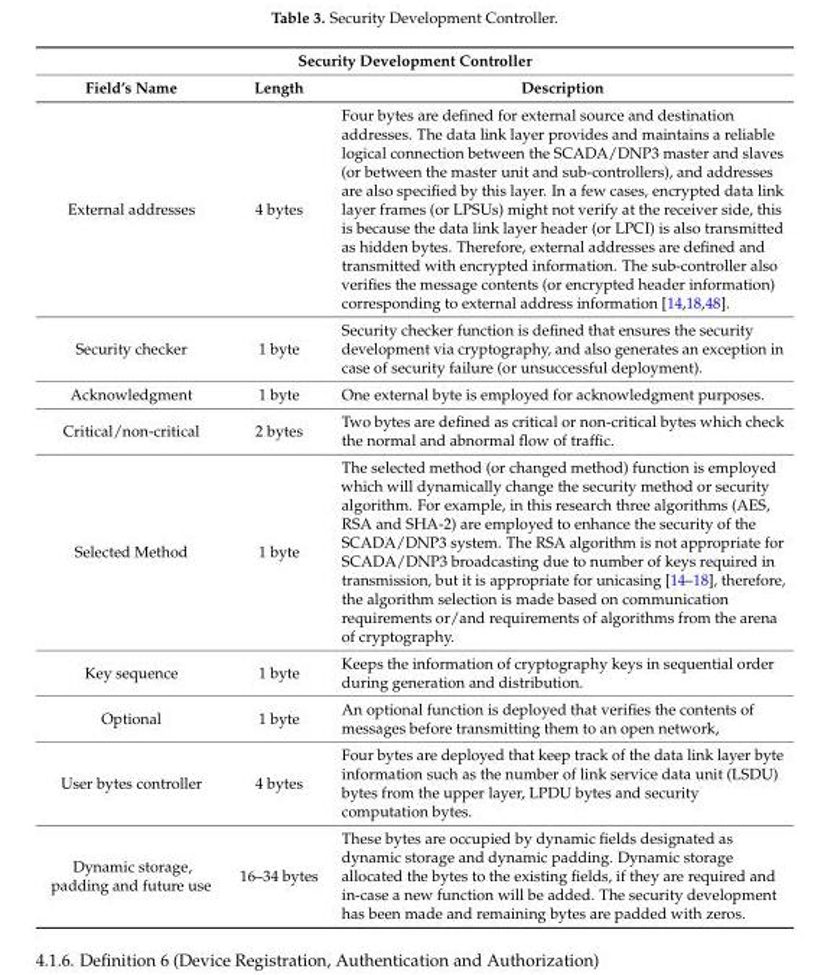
<table><thead><tr><td colspan="3">Security Development Controller</td></tr><tr><td>Field’s Name</td><td>Length</td><td>Description</td></tr></thead><tbody><tr><td>External addresses</td><td>4 bytes</td><td>Four bytes are defined for external source and destination addresses. The data link layer provides and maintains a reliable logical connection between the SCADA/DNP3 master and slaves (or between the master unit and sub-controllers), and addresses are also specified by this layer. In a few cases, encrypted data link layer frames (or LPSUs) might not verify at the receiver side, this is because the data link layer header (or LPCI) is also transmitted as hidden bytes. Therefore, external addresses are defined and transmitted with encrypted information. The sub-controller also verifies the message contents (or encrypted header information) corresponding to external address information [14,18,48].</td></tr><tr><td>Security checker</td><td>1 byte</td><td>Security checker function is defined that ensures the security development via cryptography, and also generates an exception in case of security failure (or unsuccessful deployment).</td></tr><tr><td>Acknowledgment</td><td>1 byte</td><td>One external byte is employed for acknowledgment purposes.</td></tr><tr><td>Critical/non-critical</td><td>2 bytes</td><td>Two bytes are defined as critical or non-critical bytes which check the normal and abnormal flow of traffic.</td></tr><tr><td>Selected Method</td><td>1 byte</td><td>The selected method (or changed method) function is employed which will dynamically change the security method or security algorithm. For example, in this research three algorithms (AES, RSA and SHA-2) are employed to enhance the security of the SCADA/DNP3 system. The RSA algorithm is not appropriate for SCADA/DNP3 broadcasting due to number of keys required in transmission, but it is appropriate for unicasing [14–18], therefore, the algorithm selection is made based on communication requirements or/and requirements of algorithms from the arena of cryptography.</td></tr><tr><td>Key sequence</td><td>1 byte</td><td>Keeps the information of cryptography keys in sequential order during generation and distribution.</td></tr><tr><td>Optional</td><td>1 byte</td><td>An optional function is deployed that verifies the contents of messages before transmitting them to an open network,</td></tr><tr><td>User bytes controller</td><td>4 bytes</td><td>Four bytes are deployed that keep track of the data link layer byte information such as the number of link service data unit (LSDU) bytes from the upper layer, LPDU bytes and security computation bytes.</td></tr><tr><td>Dynamic storage, padding and future use</td><td>16–34 bytes</td><td>These bytes are occupied by dynamic fields designated as dynamic storage and dynamic padding. Dynamic storage allocated the bytes to the existing fields, if they are required and in-case a new function will be added. The security development has been made and remaining bytes are padded with zeros.</td></tr></tbody></table>